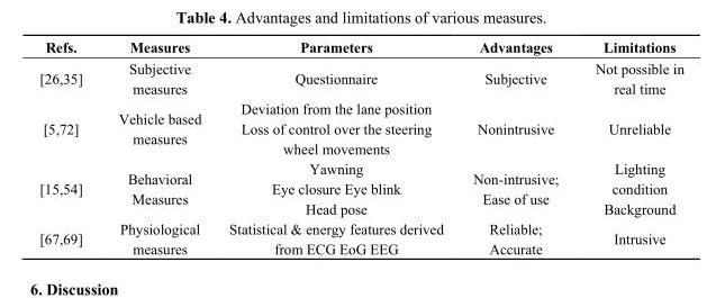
<table><thead><tr><td>Refs.</td><td>Measures</td><td>Parameters</td><td>Advantages</td><td>Limitations</td></tr></thead><tbody><tr><td>[26,35]</td><td>Subjective measures</td><td>Questionnaire</td><td>Subjective</td><td>Not possible in real time</td></tr><tr><td>[5,72]</td><td>Vehicle based measures</td><td>Deviation from the lane position Loss of control over the steering wheel movements</td><td>Nonintrusive</td><td>Unreliable</td></tr><tr><td>[15,54]</td><td>Behavioral Measures</td><td>Yawning Eye closure Eye blink Head pose</td><td>Non-intrusive; Ease of use</td><td>Lighting condition Background</td></tr><tr><td>[67,69]</td><td>Physiological measures</td><td>Statistical &amp; energy features derived from ECG EoG EEG</td><td>Reliable; Accurate</td><td>Intrusive</td></tr></tbody></table>